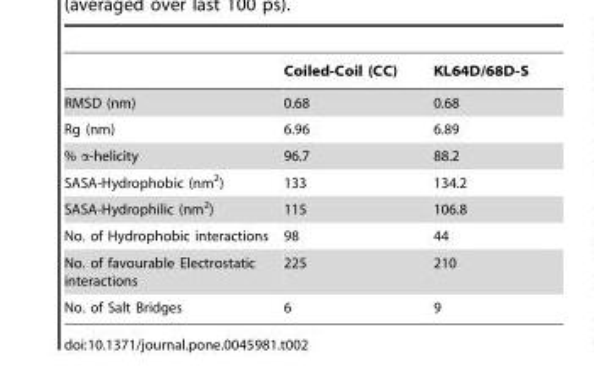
<table><thead><tr><td></td><td>Coiled-Coil (CC)</td><td>KL64D/68D-S</td></tr></thead><tbody><tr><td>RMSD (nm)</td><td>0.68</td><td>0.68</td></tr><tr><td>Rg (nm)</td><td>6.96</td><td>6.89</td></tr><tr><td>% α-helicity</td><td>96.7</td><td>88.2</td></tr><tr><td>SASA-Hydrophobic (nm<sup>2</sup>)</td><td>133</td><td>134.2</td></tr><tr><td>SASA-Hydrophilic (nm<sup>2</sup>)</td><td>115</td><td>106.8</td></tr><tr><td>No. of Hydrophobic interactions</td><td>98</td><td>44</td></tr><tr><td>No. of favourable Electrostatic interactions</td><td>225</td><td>210</td></tr><tr><td>No. of Salt Bridges</td><td>6</td><td>9</td></tr></tbody></table>